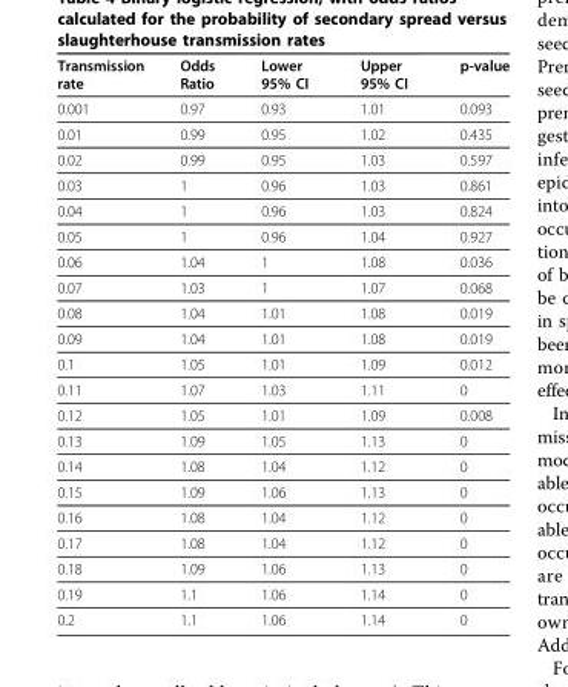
<table><thead><tr><td>Transmission rate</td><td>Odds Ratio</td><td>Lower 95% CI</td><td>Upper 95% CI</td><td>p-value</td></tr></thead><tbody><tr><td>0.001</td><td>0.97</td><td>0.93</td><td>1.01</td><td>0.093</td></tr><tr><td>0.01</td><td>0.99</td><td>0.95</td><td>1.02</td><td>0.435</td></tr><tr><td>0.02</td><td>0.99</td><td>0.95</td><td>1.03</td><td>0.597</td></tr><tr><td>0.03</td><td>1</td><td>0.96</td><td>1.03</td><td>0.861</td></tr><tr><td>0.04</td><td>1</td><td>0.96</td><td>1.03</td><td>0.824</td></tr><tr><td>0.05</td><td>1</td><td>0.96</td><td>1.04</td><td>0.927</td></tr><tr><td>0.06</td><td>1.04</td><td>1</td><td>1.08</td><td>0.036</td></tr><tr><td>0.07</td><td>1.03</td><td>1</td><td>1.07</td><td>0.068</td></tr><tr><td>0.08</td><td>1.04</td><td>1.01</td><td>1.08</td><td>0.019</td></tr><tr><td>0.09</td><td>1.04</td><td>1.01</td><td>1.08</td><td>0.019</td></tr><tr><td>0.1</td><td>1.05</td><td>1.01</td><td>1.09</td><td>0.012</td></tr><tr><td>0.11</td><td>1.07</td><td>1.03</td><td>1.11</td><td>0</td></tr><tr><td>0.12</td><td>1.05</td><td>1.01</td><td>1.09</td><td>0.008</td></tr><tr><td>0.13</td><td>1.09</td><td>1.05</td><td>1.13</td><td>0</td></tr><tr><td>0.14</td><td>1.08</td><td>1.04</td><td>1.12</td><td>0</td></tr><tr><td>0.15</td><td>1.09</td><td>1.06</td><td>1.13</td><td>0</td></tr><tr><td>0.16</td><td>1.08</td><td>1.04</td><td>1.12</td><td>0</td></tr><tr><td>0.17</td><td>1.08</td><td>1.04</td><td>1.12</td><td>0</td></tr><tr><td>0.18</td><td>1.09</td><td>1.06</td><td>1.13</td><td>0</td></tr><tr><td>0.19</td><td>1.1</td><td>1.06</td><td>1.14</td><td>0</td></tr><tr><td>0.2</td><td>1.1</td><td>1.06</td><td>1.14</td><td>0</td></tr></tbody></table>